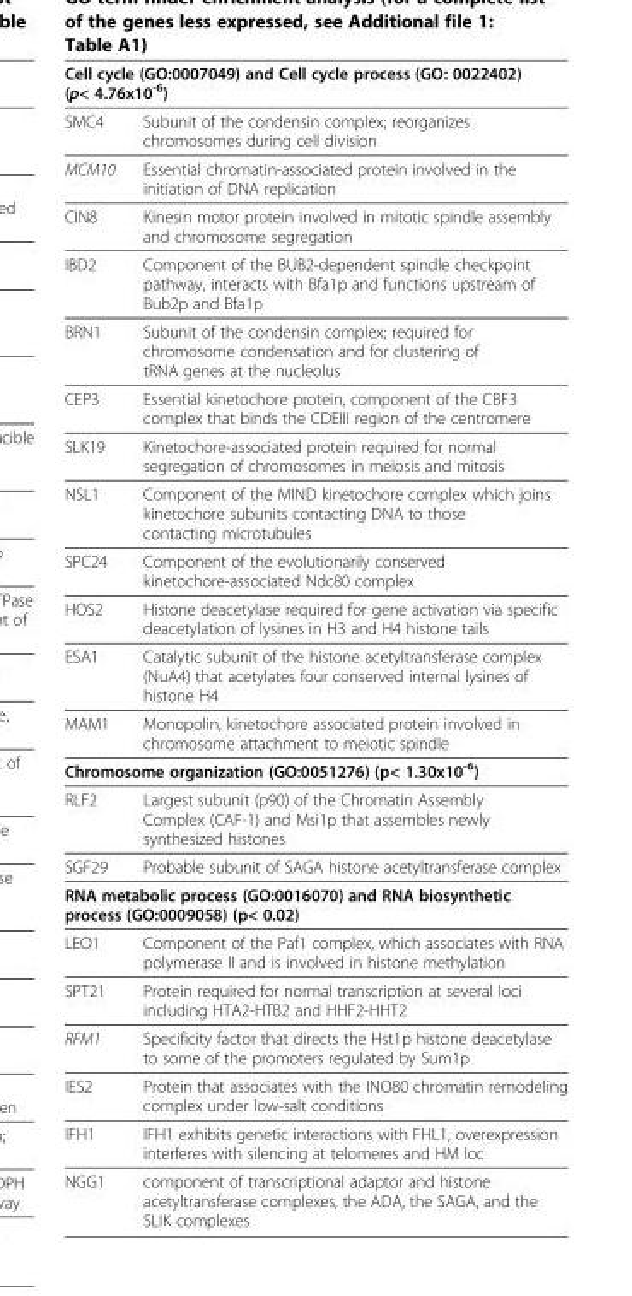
<table><thead><tr><td colspan="2">Cell cycle (GO:0007049) and Cell cycle process (GO: 0022402) (p&lt; 4.76x10<sup>-6</sup>)</td></tr><tr><td>SMC4</td><td>Subunit of the condensin complex; reorganizes chromosomes during cell division</td></tr></thead><tbody><tr><td>MCM10</td><td>Essential chromatin-associated protein involved in the initiation of DNA replication</td></tr><tr><td>CIN8</td><td>Kinesin motor protein involved in mitotic spindle assembly and chromosome segregation</td></tr><tr><td>IBD2</td><td>Component of the BUB2-dependent spindle checkpoint pathway, interacts with Bfa1p and functions upstream of Bub2p and Bfa1p</td></tr><tr><td>BRN1</td><td>Subunit of the condensin complex; required for chromosome condensation and for clustering of tRNA genes at the nucleolus</td></tr><tr><td>CEP3</td><td>Essential kinetochore protein, component of the CBF3 complex that binds the CDEIII region of the centromere</td></tr><tr><td>SLK19</td><td>Kinetochore-associated protein required for normal segregation of chromosomes in meiosis and mitosis</td></tr><tr><td>NSL1</td><td>Component of the MIND kinetochore complex which joins kinetochore subunits contacting DNA to those contacting microtubules</td></tr><tr><td>SPC24</td><td>Component of the evolutionarily conserved kinetochore-associated Ndc80 complex</td></tr><tr><td>HOS2</td><td>Histone deacetylase required for gene activation via specific deacetylation of lysines in H3 and H4 histone tails</td></tr><tr><td>ESA1</td><td>Catalytic subunit of the histone acetyltransferase complex (NuA4) that acetylates four conserved internal lysines of histone H4</td></tr><tr><td>MAM1</td><td>Monopolin, kinetochore associated protein involved in chromosome attachment to meiotic spindle</td></tr><tr><td colspan="2">Chromosome organization (GO:0051276) (p&lt; 1.30x10<sup>-6</sup>)</td></tr><tr><td>RLF2</td><td>Largest subunit (p90) of the Chromatin Assembly Complex (CAF-1) and Msi1p that assembles newly synthesized histones</td></tr><tr><td>SGF29</td><td>Probable subunit of SAGA histone acetyltransferase complex</td></tr><tr><td colspan="2">RNA metabolic process (GO:0016070) and RNA biosynthetic process (GO:0009058) (p&lt; 0.02)</td></tr><tr><td>LEO1</td><td>Component of the Paf1 complex, which associates with RNA polymerase II and is involved in histone methylation</td></tr><tr><td>SPT21</td><td>Protein required for normal transcription at several loci including HTA2-HTB2 and HHF2-HHT2</td></tr><tr><td>RFM1</td><td>Specificity factor that directs the Hst1p histone deacetylase to some of the promoters regulated by Sum1p</td></tr><tr><td>IES2</td><td>Protein that associates with the INO80 chromatin remodeling complex under low-salt conditions</td></tr><tr><td>IFH1</td><td>IFH1 exhibits genetic interactions with FHL1, overexpression interferes with silencing at telomeres and HM loc</td></tr><tr><td>NGG1</td><td>component of transcriptional adaptor and histone acetyltransferase complexes, the ADA, the SAGA, and the SLIK complexes</td></tr></tbody></table>